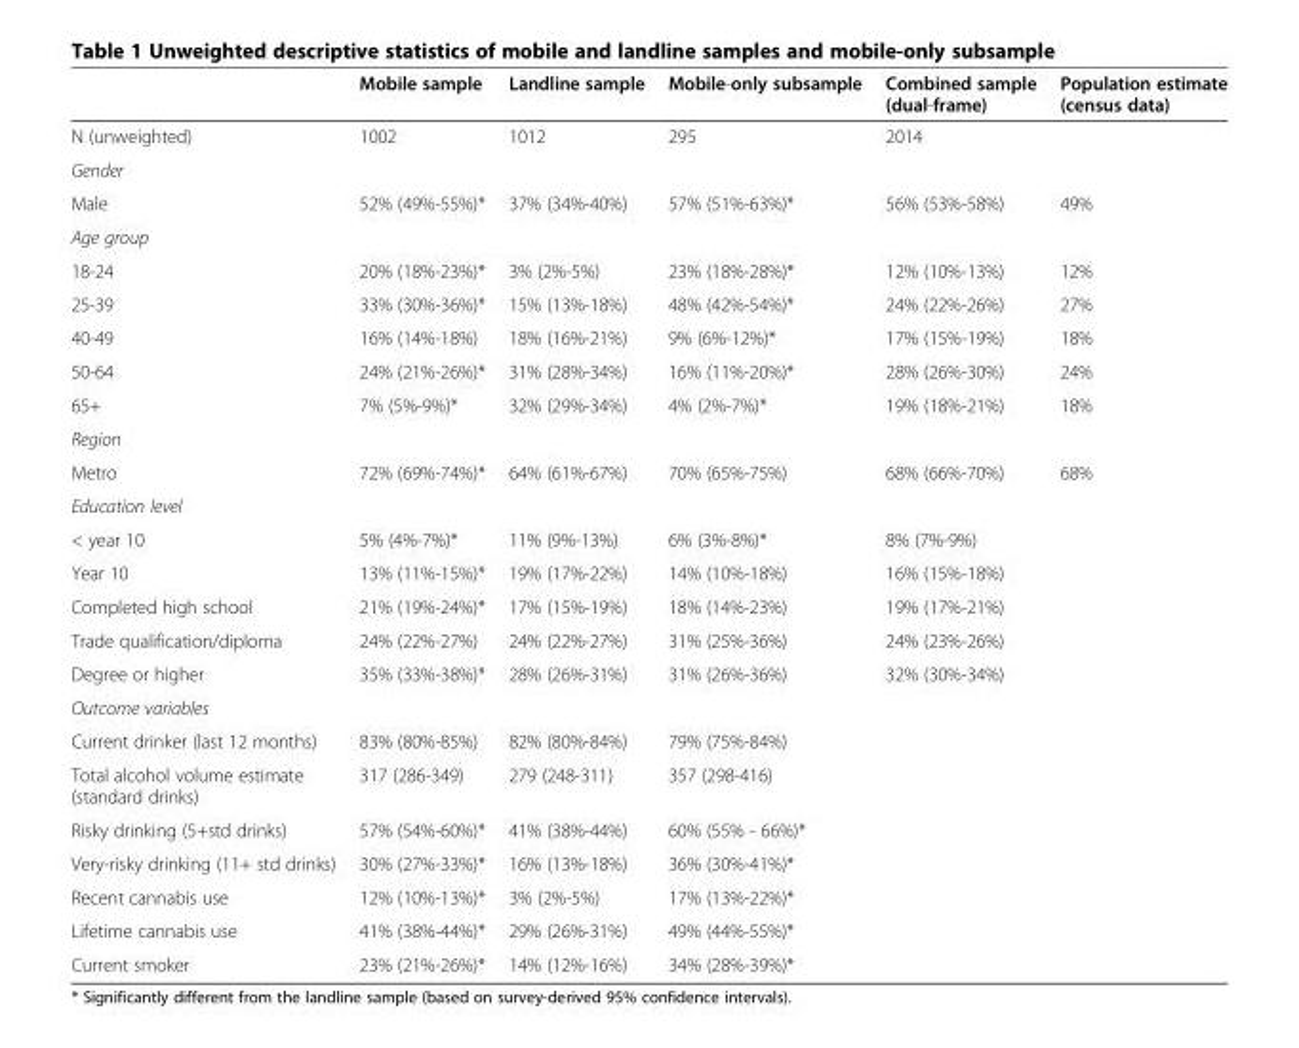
<table><thead><tr><td></td><td>Mobile sample</td><td>Landline sample</td><td>Mobile-only subsample</td><td>Combined sample (dual-frame)</td><td>Population estimate (census data)</td></tr></thead><tbody><tr><td>N (unweighted)</td><td>1002</td><td>1012</td><td>295</td><td>2014</td><td></td></tr><tr><td colspan="6">Gender</td></tr><tr><td>Male</td><td>52% (49%-55%)*</td><td>37% (34%-40%)</td><td>57% (51%-63%)*</td><td>56% (53%-58%)</td><td>49%</td></tr><tr><td colspan="6">Age group</td></tr><tr><td>18-24</td><td>20% (18%-23%)*</td><td>3% (2%-5%)</td><td>23% (18%-28%)*</td><td>12% (10%-13%)</td><td>12%</td></tr><tr><td>25-39</td><td>33% (30%-36%)*</td><td>15% (13%-18%)</td><td>48% (42%-54%)*</td><td>24% (22%-26%)</td><td>27%</td></tr><tr><td>40-49</td><td>16% (14%-18%)</td><td>18% (16%-21%)</td><td>9% (6%-12%)*</td><td>17% (15%-19%)</td><td>18%</td></tr><tr><td>50-64</td><td>24% (21%-26%)*</td><td>31% (28%-34%)</td><td>16% (11%-20%)*</td><td>28% (26%-30%)</td><td>24%</td></tr><tr><td>65+</td><td>7% (5%-9%)*</td><td>32% (29%-34%)</td><td>4% (2%-7%)*</td><td>19% (18%-21%)</td><td>18%</td></tr><tr><td colspan="6">Region</td></tr><tr><td>Metro</td><td>72% (69%-74%)*</td><td>64% (61%-67%)</td><td>70% (65%-75%)</td><td>68% (66%-70%)</td><td>68%</td></tr><tr><td colspan="6">Education level</td></tr><tr><td>&lt; year 10</td><td>5% (4%-7%)*</td><td>11% (9%-13%)</td><td>6% (3%-8%)*</td><td>8% (7%-9%)</td><td></td></tr><tr><td>Year 10</td><td>13% (11%-15%)*</td><td>19% (17%-22%)</td><td>14% (10%-18%)</td><td>16% (15%-18%)</td><td></td></tr><tr><td>Completed high school</td><td>21% (19%-24%)*</td><td>17% (15%-19%)</td><td>18% (14%-23%)</td><td>19% (17%-21%)</td><td></td></tr><tr><td>Trade qualification/diploma</td><td>24% (22%-27%)</td><td>24% (22%-27%)</td><td>31% (25%-36%)</td><td>24% (23%-26%)</td><td></td></tr><tr><td>Degree or higher</td><td>35% (33%-38%)*</td><td>28% (26%-31%)</td><td>31% (26%-36%)</td><td>32% (30%-34%)</td><td></td></tr><tr><td colspan="6">Outcome variables</td></tr><tr><td>Current drinker (last 12 months)</td><td>83% (80%-85%)</td><td>82% (80%-84%)</td><td>79% (75%-84%)</td><td></td><td></td></tr><tr><td>Total alcohol volume estimate (standard drinks)</td><td>317 (286-349)</td><td>279 (248-311)</td><td>357 (298-416)</td><td></td><td></td></tr><tr><td>Risky drinking (5+std drinks)</td><td>57% (54%-60%)*</td><td>41% (38%-44%)</td><td>60% (55% - 66%)*</td><td></td><td></td></tr><tr><td>Very-risky drinking (11+ std drinks)</td><td>30% (27%-33%)*</td><td>16% (13%-18%)</td><td>36% (30%-41%)*</td><td></td><td></td></tr><tr><td>Recent cannabis use</td><td>12% (10%-13%)*</td><td>3% (2%-5%)</td><td>17% (13%-22%)*</td><td></td><td></td></tr><tr><td>Lifetime cannabis use</td><td>41% (38%-44%)*</td><td>29% (26%-31%)</td><td>49% (44%-55%)*</td><td></td><td></td></tr><tr><td>Current smoker</td><td>23% (21%-26%)*</td><td>14% (12%-16%)</td><td>34% (28%-39%)*</td><td></td><td></td></tr></tbody></table>